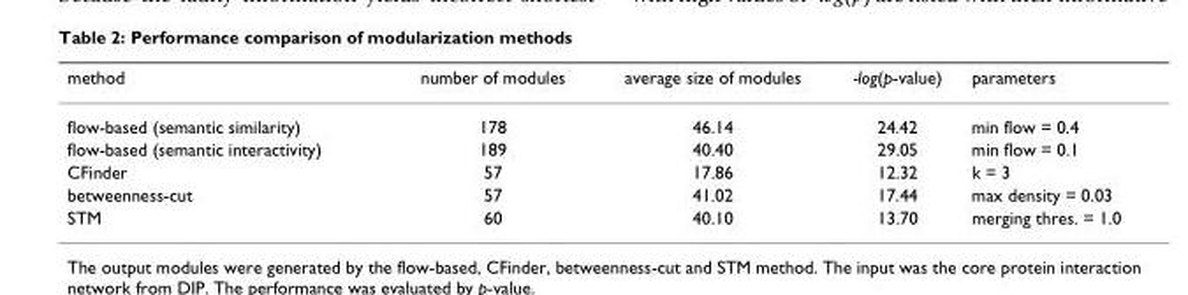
<table><thead><tr><td>method</td><td>number of modules</td><td>average size of modules</td><td>-log(p-value)</td><td>parameters</td></tr></thead><tbody><tr><td>flow-based (semantic similarity)</td><td>178</td><td>46.14</td><td>24.42</td><td>min flow = 0.4</td></tr><tr><td>flow-based (semantic interactivity)</td><td>189</td><td>40.40</td><td>29.05</td><td>min flow = 0.1</td></tr><tr><td>CFinder</td><td>57</td><td>17.86</td><td>12.32</td><td>k = 3</td></tr><tr><td>betweenness-cut</td><td>57</td><td>41.02</td><td>17.44</td><td>max density = 0.03</td></tr><tr><td>STM</td><td>60</td><td>40.10</td><td>13.70</td><td>merging thres. = 1.0</td></tr></tbody></table>